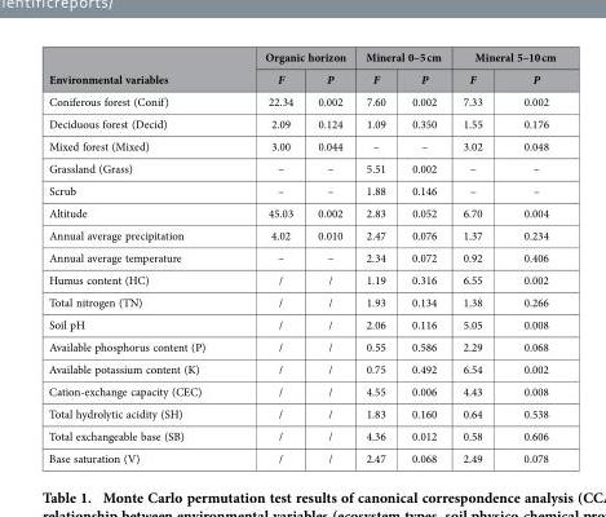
<table><thead><tr><td rowspan="2">Environmental variables</td><td colspan="2">Organic horizon</td><td colspan="2">Mineral 0–5 cm</td><td colspan="2">Mineral 5–10 cm</td></tr><tr><td>F</td><td>P</td><td>F</td><td>P</td><td>F</td><td>P</td></tr></thead><tbody><tr><td>Coniferous forest (Conif)</td><td>22.34</td><td>0.002</td><td>7.60</td><td>0.002</td><td>7.33</td><td>0.002</td></tr><tr><td>Deciduous forest (Decid)</td><td>2.09</td><td>0.124</td><td>1.09</td><td>0.350</td><td>1.55</td><td>0.176</td></tr><tr><td>Mixed forest (Mixed)</td><td>3.00</td><td>0.044</td><td>–</td><td>–</td><td>3.02</td><td>0.048</td></tr><tr><td>Grassland (Grass)</td><td>–</td><td>–</td><td>5.51</td><td>0.002</td><td>–</td><td>–</td></tr><tr><td>Scrub</td><td>–</td><td>–</td><td>1.88</td><td>0.146</td><td>–</td><td>–</td></tr><tr><td>Altitude</td><td>45.03</td><td>0.002</td><td>2.83</td><td>0.052</td><td>6.70</td><td>0.004</td></tr><tr><td>Annual average precipitation</td><td>4.02</td><td>0.010</td><td>2.47</td><td>0.076</td><td>1.37</td><td>0.234</td></tr><tr><td>Annual average temperature</td><td>–</td><td>–</td><td>2.34</td><td>0.072</td><td>0.92</td><td>0.406</td></tr><tr><td>Humus content (HC)</td><td>/</td><td>/</td><td>1.19</td><td>0.316</td><td>6.55</td><td>0.002</td></tr><tr><td>Total nitrogen (TN)</td><td>/</td><td>/</td><td>1.93</td><td>0.134</td><td>1.38</td><td>0.266</td></tr><tr><td>Soil pH</td><td>/</td><td>/</td><td>2.06</td><td>0.116</td><td>5.05</td><td>0.008</td></tr><tr><td>Available phosphorus content (P)</td><td>/</td><td>/</td><td>0.55</td><td>0.586</td><td>2.29</td><td>0.068</td></tr><tr><td>Available potassium content (K)</td><td>/</td><td>/</td><td>0.75</td><td>0.492</td><td>6.54</td><td>0.002</td></tr><tr><td>Cation-exchange capacity (CEC)</td><td>/</td><td>/</td><td>4.55</td><td>0.006</td><td>4.43</td><td>0.008</td></tr><tr><td>Total hydrolytic acidity (SH)</td><td>/</td><td>/</td><td>1.83</td><td>0.160</td><td>0.64</td><td>0.538</td></tr><tr><td>Total exchangeable base (SB)</td><td>/</td><td>/</td><td>4.36</td><td>0.012</td><td>0.58</td><td>0.606</td></tr><tr><td>Base saturation (V)</td><td>/</td><td>/</td><td>2.47</td><td>0.068</td><td>2.49</td><td>0.078</td></tr></tbody></table>